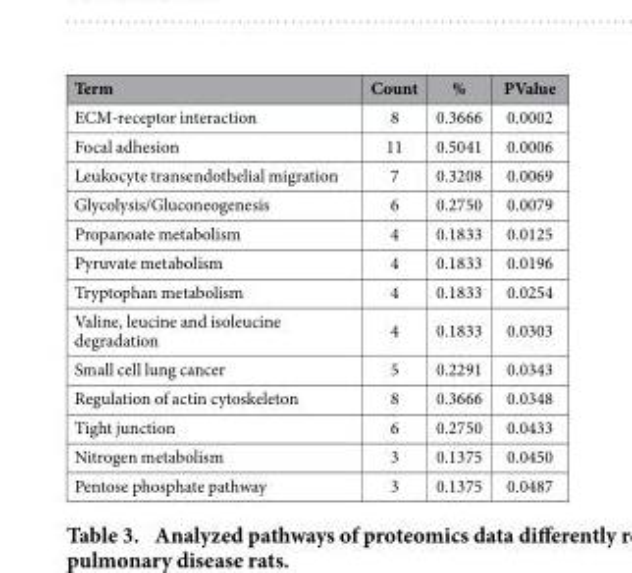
<table><thead><tr><td>Term</td><td>Count</td><td>%</td><td>PValue</td></tr></thead><tbody><tr><td>ECM-receptor interaction</td><td>8</td><td>0.3666</td><td>0.0002</td></tr><tr><td>Focal adhesion</td><td>11</td><td>0.5041</td><td>0.0006</td></tr><tr><td>Leukocyte transendothelial migration</td><td>7</td><td>0.3208</td><td>0.0069</td></tr><tr><td>Glycolysis/Gluconeogenesis</td><td>6</td><td>0.2750</td><td>0.0079</td></tr><tr><td>Propanoate metabolism</td><td>4</td><td>0.1833</td><td>0.0125</td></tr><tr><td>Pyruvate metabolism</td><td>4</td><td>0.1833</td><td>0.0196</td></tr><tr><td>Tryptophan metabolism</td><td>4</td><td>0.1833</td><td>0.0254</td></tr><tr><td>Valine, leucine and isoleucine degradation</td><td>4</td><td>0.1833</td><td>0.0303</td></tr><tr><td>Small cell lung cancer</td><td>5</td><td>0.2291</td><td>0.0343</td></tr><tr><td>Regulation of actin cytoskeleton</td><td>8</td><td>0.3666</td><td>0.0348</td></tr><tr><td>Tight junction</td><td>6</td><td>0.2750</td><td>0.0433</td></tr><tr><td>Nitrogen metabolism</td><td>3</td><td>0.1375</td><td>0.0450</td></tr><tr><td>Pentose phosphate pathway</td><td>3</td><td>0.1375</td><td>0.0487</td></tr></tbody></table>